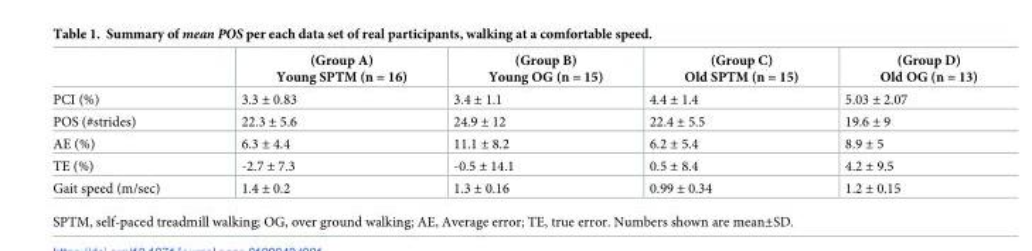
<table><thead><tr><td></td><td>(Group A) Young SPTM (n = 16)</td><td>(Group B) Young OG (n = 15)</td><td>(Group C) Old SPTM (n = 15)</td><td>(Group D) Old OG (n = 13)</td></tr></thead><tbody><tr><td>PCI (%)</td><td>3.3 ± 0.83</td><td>3.4 ± 1.1</td><td>4.4 ± 1.4</td><td>5.03 ± 2.07</td></tr><tr><td>POS (#strides)</td><td>22.3 ± 5.6</td><td>24.9 ± 12</td><td>22.4 ± 5.5</td><td>19.6 ± 9</td></tr><tr><td>AE (%)</td><td>6.3 ± 4.4</td><td>11.1 ± 8.2</td><td>6.2 ± 5.4</td><td>8.9 ± 5</td></tr><tr><td>TE (%)</td><td>-2.7 ± 7.3</td><td>-0.5 ± 14.1</td><td>0.5 ± 8.4</td><td>4.2 ± 9.5</td></tr><tr><td>Gait speed (m/sec)</td><td>1.4 ± 0.2</td><td>1.3 ± 0.16</td><td>0.99 ± 0.34</td><td>1.2 ± 0.15</td></tr></tbody></table>